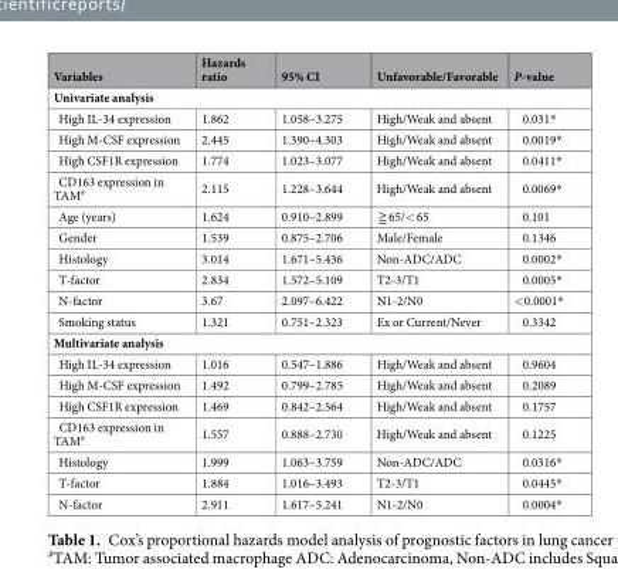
<table><thead><tr><td>Variables</td><td>Hazards ratio</td><td>95% CI</td><td>Unfavorable/Favorable</td><td>P-value</td></tr></thead><tbody><tr><td colspan="5">Univariate analysis</td></tr><tr><td>High IL-34 expression</td><td>1.862</td><td>1.058–3.275</td><td>High/Weak and absent</td><td>0.031*</td></tr><tr><td>High M-CSF expression</td><td>2.445</td><td>1.390–4.303</td><td>High/Weak and absent</td><td>0.0019*</td></tr><tr><td>High CSF1R expression</td><td>1.774</td><td>1.023–3.077</td><td>High/Weak and absent</td><td>0.0411*</td></tr><tr><td>CD163 expression in TAM<sup>#</sup></td><td>2.115</td><td>1.228–3.644</td><td>High/Weak and absent</td><td>0.0069*</td></tr><tr><td>Age (years)</td><td>1.624</td><td>0.910–2.899</td><td>≧ 65/&lt; 65</td><td>0.101</td></tr><tr><td>Gender</td><td>1.539</td><td>0.875–2.706</td><td>Male/Female</td><td>0.1346</td></tr><tr><td>Histology</td><td>3.014</td><td>1.671–5.436</td><td>Non-ADC/ADC</td><td>0.0002*</td></tr><tr><td>T-factor</td><td>2.834</td><td>1.572–5.109</td><td>T2-3/T1</td><td>0.0005*</td></tr><tr><td>N-factor</td><td>3.67</td><td>2.097–6.422</td><td>N1-2/N0</td><td>&lt;0.0001*</td></tr><tr><td>Smoking status</td><td>1.321</td><td>0.751–2.323</td><td>Ex or Current/Never</td><td>0.3342</td></tr><tr><td colspan="5">Multivariate analysis</td></tr><tr><td>High IL-34 expression</td><td>1.016</td><td>0.547–1.886</td><td>High/Weak and absent</td><td>0.9604</td></tr><tr><td>High M-CSF expression</td><td>1.492</td><td>0.799–2.785</td><td>High/Weak and absent</td><td>0.2089</td></tr><tr><td>High CSF1R expression</td><td>1.469</td><td>0.842–2.564</td><td>High/Weak and absent</td><td>0.1757</td></tr><tr><td>CD163 expression in TAM<sup>#</sup></td><td>1.557</td><td>0.888–2.730</td><td>High/Weak and absent</td><td>0.1225</td></tr><tr><td>Histology</td><td>1.999</td><td>1.063–3.759</td><td>Non-ADC/ADC</td><td>0.0316*</td></tr><tr><td>T-factor</td><td>1.884</td><td>1.016–3.493</td><td>T2-3/T1</td><td>0.0445*</td></tr><tr><td>N-factor</td><td>2.911</td><td>1.617–5.241</td><td>N1-2/N0</td><td>0.0004*</td></tr></tbody></table>